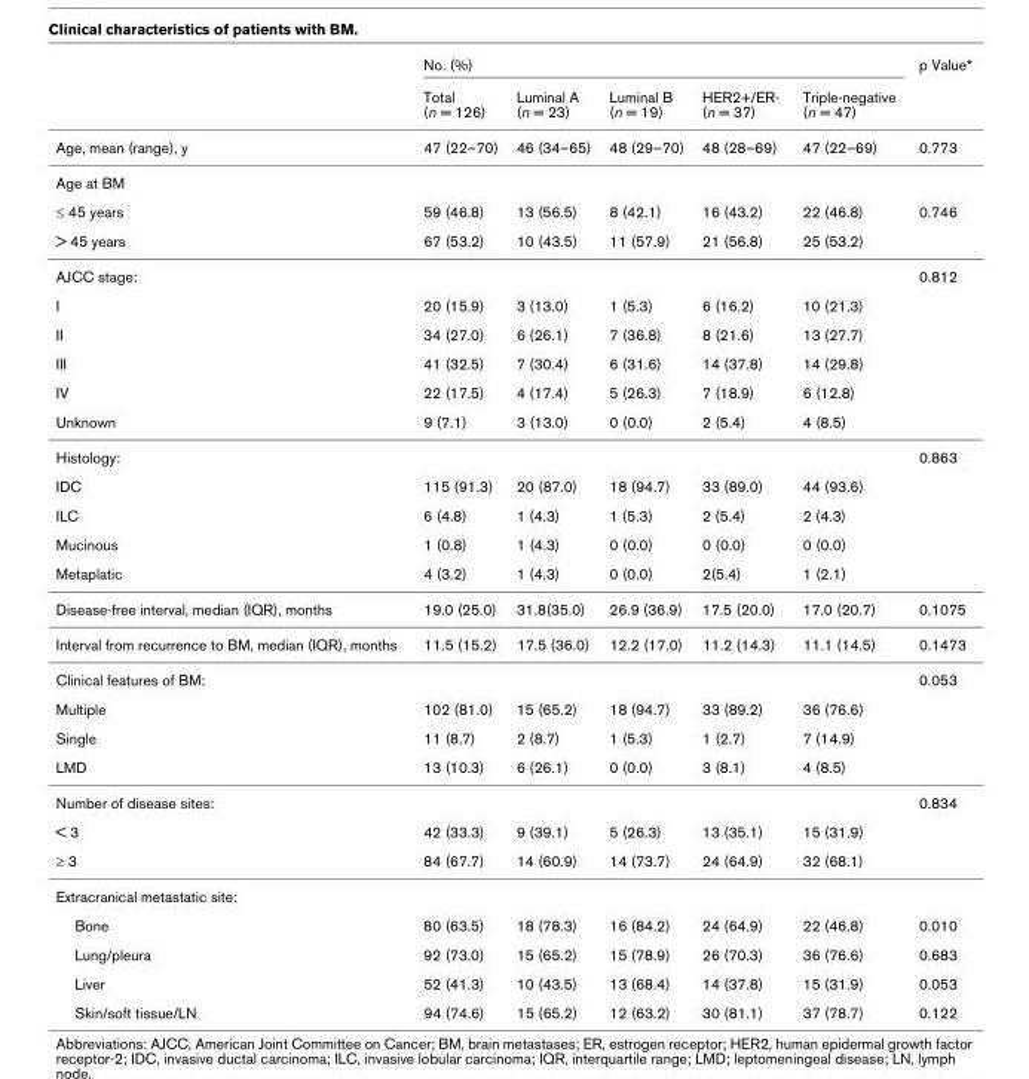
<table><thead><tr><td rowspan="2"></td><td colspan="5">No. (%)</td><td rowspan="2">p Value*</td></tr><tr><td>Total (n = 126)</td><td>Luminal A (n = 23)</td><td>Luminal B (n = 19)</td><td>HER2+/ER- (n = 37)</td><td>Triple-negative (n = 47)</td></tr></thead><tbody><tr><td>Age, mean (range), y</td><td>47 (22–70)</td><td>46 (34–65)</td><td>48 (29–70)</td><td>48 (28–69)</td><td>47 (22–69)</td><td>0.773</td></tr><tr><td colspan="7">Age at BM</td></tr><tr><td>≤ 45 years</td><td>59 (46.8)</td><td>13 (56.5)</td><td>8 (42.1)</td><td>16 (43.2)</td><td>22 (46.8)</td><td>0.746</td></tr><tr><td>&gt; 45 years</td><td>67 (53.2)</td><td>10 (43.5)</td><td>11 (57.9)</td><td>21 (56.8)</td><td>25 (53.2)</td><td></td></tr><tr><td>AJCC stage:</td><td></td><td></td><td></td><td></td><td></td><td>0.812</td></tr><tr><td>I</td><td>20 (15.9)</td><td>3 (13.0)</td><td>1 (5.3)</td><td>6 (16.2)</td><td>10 (21.3)</td><td></td></tr><tr><td>II</td><td>34 (27.0)</td><td>6 (26.1)</td><td>7 (36.8)</td><td>8 (21.6)</td><td>13 (27.7)</td><td></td></tr><tr><td>III</td><td>41 (32.5)</td><td>7 (30.4)</td><td>6 (31.6)</td><td>14 (37.8)</td><td>14 (29.8)</td><td></td></tr><tr><td>IV</td><td>22 (17.5)</td><td>4 (17.4)</td><td>5 (26.3)</td><td>7 (18.9)</td><td>6 (12.8)</td><td></td></tr><tr><td>Unknown</td><td>9 (7.1)</td><td>3 (13.0)</td><td>0 (0.0)</td><td>2 (5.4)</td><td>4 (8.5)</td><td></td></tr><tr><td>Histology:</td><td></td><td></td><td></td><td></td><td></td><td>0.863</td></tr><tr><td>IDC</td><td>115 (91.3)</td><td>20 (87.0)</td><td>18 (94.7)</td><td>33 (89.0)</td><td>44 (93.6)</td><td></td></tr><tr><td>ILC</td><td>6 (4.8)</td><td>1 (4.3)</td><td>1 (5.3)</td><td>2 (5.4)</td><td>2 (4.3)</td><td></td></tr><tr><td>Mucinous</td><td>1 (0.8)</td><td>1 (4.3)</td><td>0 (0.0)</td><td>0 (0.0)</td><td>0 (0.0)</td><td></td></tr><tr><td>Metaplatic</td><td>4 (3.2)</td><td>1 (4.3)</td><td>0 (0.0)</td><td>2(5.4)</td><td>1 (2.1)</td><td></td></tr><tr><td>Disease-free interval, median (IQR), months</td><td>19.0 (25.0)</td><td>31.8(35.0)</td><td>26.9 (36.9)</td><td>17.5 (20.0)</td><td>17.0 (20.7)</td><td>0.1075</td></tr><tr><td>Interval from recurrence to BM, median (IQR), months</td><td>11.5 (15.2)</td><td>17.5 (36.0)</td><td>12.2 (17.0)</td><td>11.2 (14.3)</td><td>11.1 (14.5)</td><td>0.1473</td></tr><tr><td>Clinical features of BM:</td><td></td><td></td><td></td><td></td><td></td><td>0.053</td></tr><tr><td>Multiple</td><td>102 (81.0)</td><td>15 (65.2)</td><td>18 (94.7)</td><td>33 (89.2)</td><td>36 (76.6)</td><td></td></tr><tr><td>Single</td><td>11 (8.7)</td><td>2 (8.7)</td><td>1 (5.3)</td><td>1 (2.7)</td><td>7 (14.9)</td><td></td></tr><tr><td>LMD</td><td>13 (10.3)</td><td>6 (26.1)</td><td>0 (0.0)</td><td>3 (8.1)</td><td>4 (8.5)</td><td></td></tr><tr><td>Number of disease sites:</td><td></td><td></td><td></td><td></td><td></td><td>0.834</td></tr><tr><td>&lt; 3</td><td>42 (33.3)</td><td>9 (39.1)</td><td>5 (26.3)</td><td>13 (35.1)</td><td>15 (31.9)</td><td></td></tr><tr><td>≥ 3</td><td>84 (67.7)</td><td>14 (60.9)</td><td>14 (73.7)</td><td>24 (64.9)</td><td>32 (68.1)</td><td></td></tr><tr><td colspan="7">Extracranical metastatic site:</td></tr><tr><td>Bone</td><td>80 (63.5)</td><td>18 (78.3)</td><td>16 (84.2)</td><td>24 (64.9)</td><td>22 (46.8)</td><td>0.010</td></tr><tr><td>Lung/pleura</td><td>92 (73.0)</td><td>15 (65.2)</td><td>15 (78.9)</td><td>26 (70.3)</td><td>36 (76.6)</td><td>0.683</td></tr><tr><td>Liver</td><td>52 (41.3)</td><td>10 (43.5)</td><td>13 (68.4)</td><td>14 (37.8)</td><td>15 (31.9)</td><td>0.053</td></tr><tr><td>Skin/soft tissue/LN</td><td>94 (74.6)</td><td>15 (65.2)</td><td>12 (63.2)</td><td>30 (81.1)</td><td>37 (78.7)</td><td>0.122</td></tr></tbody></table>